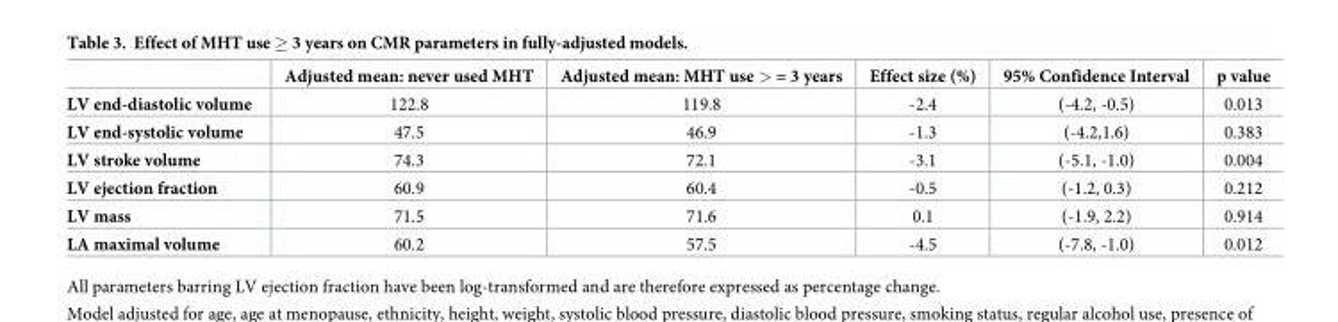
<table><thead><tr><td></td><td>Adjusted mean: never used MHT</td><td>Adjusted mean: MHT use &gt; = 3 years</td><td>Effect size (%)</td><td>95% Confidence Interval</td><td>p value</td></tr></thead><tbody><tr><td>LV end-diastolic volume</td><td>122.8</td><td>119.8</td><td>-2.4</td><td>(-4.2, -0.5)</td><td>0.013</td></tr><tr><td>LV end-systolic volume</td><td>47.5</td><td>46.9</td><td>-1.3</td><td>(-4.2,1.6)</td><td>0.383</td></tr><tr><td>LV stroke volume</td><td>74.3</td><td>72.1</td><td>-3.1</td><td>(-5.1, -1.0)</td><td>0.004</td></tr><tr><td>LV ejection fraction</td><td>60.9</td><td>60.4</td><td>-0.5</td><td>(-1.2, 0.3)</td><td>0.212</td></tr><tr><td>LV mass</td><td>71.5</td><td>71.6</td><td>0.1</td><td>(-1.9, 2.2)</td><td>0.914</td></tr><tr><td>LA maximal volume</td><td>60.2</td><td>57.5</td><td>-4.5</td><td>(-7.8, -1.0)</td><td>0.012</td></tr></tbody></table>